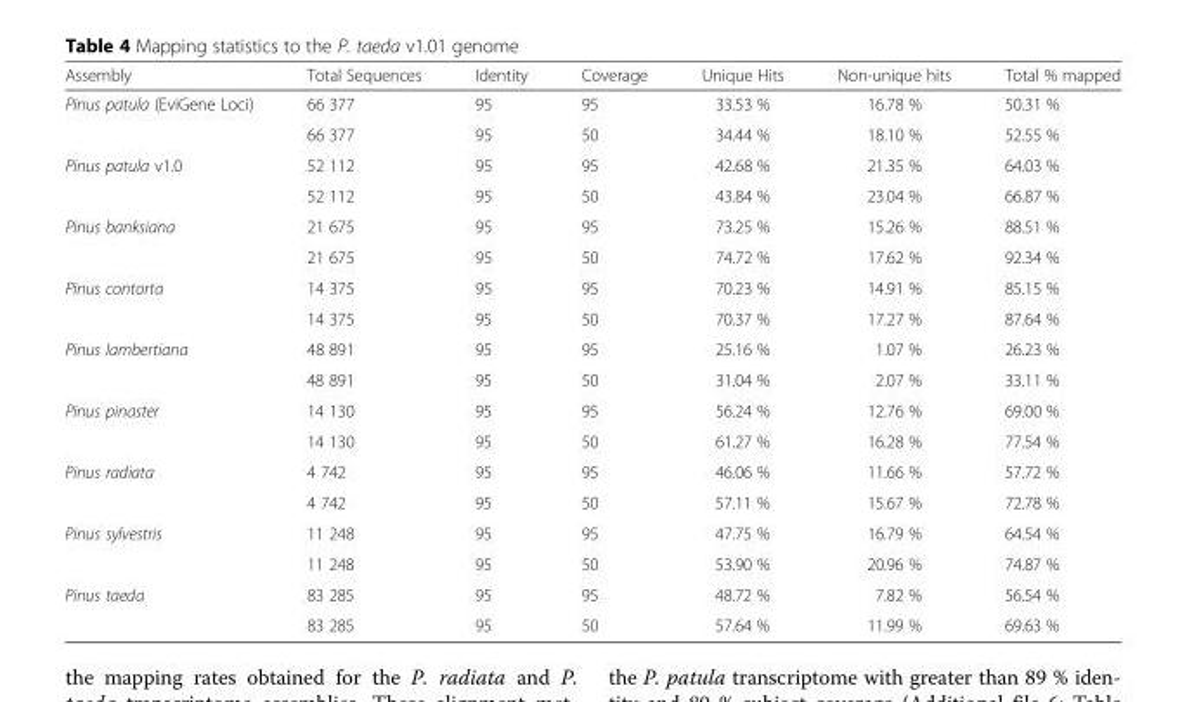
<table><thead><tr><td>Assembly</td><td>Total Sequences</td><td>Identity</td><td>Coverage</td><td>Unique Hits</td><td>Non-unique hits</td><td>Total % mapped</td></tr></thead><tbody><tr><td rowspan="2">Pinus patula (EviGene Loci)</td><td>66 377</td><td>95</td><td>95</td><td>33.53 %</td><td>16.78 %</td><td>50.31 %</td></tr><tr><td>66 377</td><td>95</td><td>50</td><td>34.44 %</td><td>18.10 %</td><td>52.55 %</td></tr><tr><td rowspan="2">Pinus patula v1.0</td><td>52 112</td><td>95</td><td>95</td><td>42.68 %</td><td>21.35 %</td><td>64.03 %</td></tr><tr><td>52 112</td><td>95</td><td>50</td><td>43.84 %</td><td>23.04 %</td><td>66.87 %</td></tr><tr><td rowspan="2">Pinus banksiana</td><td>21 675</td><td>95</td><td>95</td><td>73.25 %</td><td>15.26 %</td><td>88.51 %</td></tr><tr><td>21 675</td><td>95</td><td>50</td><td>74.72 %</td><td>17.62 %</td><td>92.34 %</td></tr><tr><td rowspan="2">Pinus contorta</td><td>14 375</td><td>95</td><td>95</td><td>70.23 %</td><td>14.91 %</td><td>85.15 %</td></tr><tr><td>14 375</td><td>95</td><td>50</td><td>70.37 %</td><td>17.27 %</td><td>87.64 %</td></tr><tr><td rowspan="2">Pinus lambertiana</td><td>48 891</td><td>95</td><td>95</td><td>25.16 %</td><td>1.07 %</td><td>26.23 %</td></tr><tr><td>48 891</td><td>95</td><td>50</td><td>31.04 %</td><td>2.07 %</td><td>33.11 %</td></tr><tr><td rowspan="2">Pinus pinaster</td><td>14 130</td><td>95</td><td>95</td><td>56.24 %</td><td>12.76 %</td><td>69.00 %</td></tr><tr><td>14 130</td><td>95</td><td>50</td><td>61.27 %</td><td>16.28 %</td><td>77.54 %</td></tr><tr><td rowspan="2">Pinus radiata</td><td>4 742</td><td>95</td><td>95</td><td>46.06 %</td><td>11.66 %</td><td>57.72 %</td></tr><tr><td>4 742</td><td>95</td><td>50</td><td>57.11 %</td><td>15.67 %</td><td>72.78 %</td></tr><tr><td rowspan="2">Pinus sylvestris</td><td>11 248</td><td>95</td><td>95</td><td>47.75 %</td><td>16.79 %</td><td>64.54 %</td></tr><tr><td>11 248</td><td>95</td><td>50</td><td>53.90 %</td><td>20.96 %</td><td>74.87 %</td></tr><tr><td rowspan="2">Pinus taeda</td><td>83 285</td><td>95</td><td>95</td><td>48.72 %</td><td>7.82 %</td><td>56.54 %</td></tr><tr><td>83 285</td><td>95</td><td>50</td><td>57.64 %</td><td>11.99 %</td><td>69.63 %</td></tr></tbody></table>